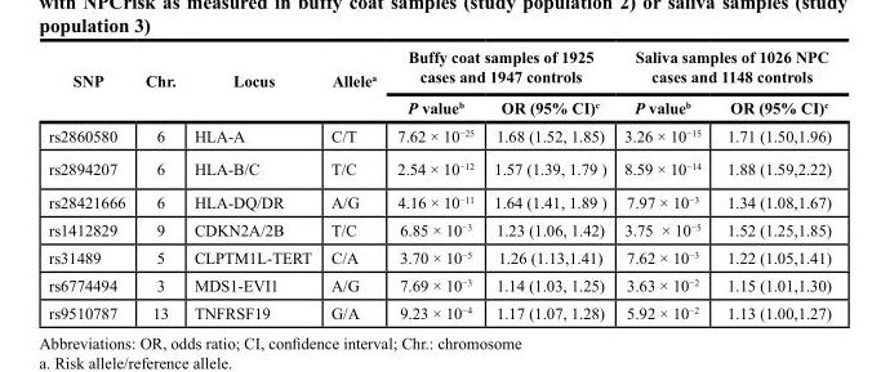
<table><thead><tr><td rowspan="2">SNP</td><td rowspan="2">Chr.</td><td rowspan="2">Locus</td><td rowspan="2">Allele<sup>a</sup></td><td colspan="2">Buffy coat samples of 1925 cases and 1947 controls</td><td colspan="2">Saliva samples of 1026 NPC cases and 1148 controls</td></tr><tr><td>P value<sup>b</sup></td><td>OR (95% CI)<sup>c</sup></td><td>P value<sup>b</sup></td><td>OR (95% CI)<sup>c</sup></td></tr></thead><tbody><tr><td>rs2860580</td><td>6</td><td>HLA-A</td><td>C/T</td><td>7.62 × 10<sup>−25</sup></td><td>1.68 (1.52, 1.85)</td><td>3.26 × 10<sup>−15</sup></td><td>1.71 (1.50,1.96)</td></tr><tr><td>rs2894207</td><td>6</td><td>HLA-B/C</td><td>T/C</td><td>2.54 × 10<sup>−12</sup></td><td>1.57 (1.39, 1.79 )</td><td>8.59 × 10<sup>−14</sup></td><td>1.88 (1.59,2.22)</td></tr><tr><td>rs28421666</td><td>6</td><td>HLA-DQ/DR</td><td>A/G</td><td>4.16 × 10<sup>−11</sup></td><td>1.64 (1.41, 1.89 )</td><td>7.97 × 10<sup>−3</sup></td><td>1.34 (1.08,1.67)</td></tr><tr><td>rs1412829</td><td>9</td><td>CDKN2A/2B</td><td>T/C</td><td>6.85 × 10<sup>−3</sup></td><td>1.23 (1.06, 1.42)</td><td>3.75 × 10<sup>−5</sup></td><td>1.52 (1.25,1.85)</td></tr><tr><td>rs31489</td><td>5</td><td>CLPTM1L-TERT</td><td>C/A</td><td>3.70 × 10<sup>−5</sup></td><td>1.26 (1.13,1.41)</td><td>7.62 × 10<sup>−3</sup></td><td>1.22 (1.05,1.41)</td></tr><tr><td>rs6774494</td><td>3</td><td>MDS1-EVI1</td><td>A/G</td><td>7.69 × 10<sup>−3</sup></td><td>1.14 (1.03, 1.25)</td><td>3.63 × 10<sup>−2</sup></td><td>1.15 (1.01,1.30)</td></tr><tr><td>rs9510787</td><td>13</td><td>TNFRSF19</td><td>G/A</td><td>9.23 × 10<sup>−4</sup></td><td>1.17 (1.07, 1.28)</td><td>5.92 × 10<sup>−2</sup></td><td>1.13 (1.00,1.27)</td></tr></tbody></table>